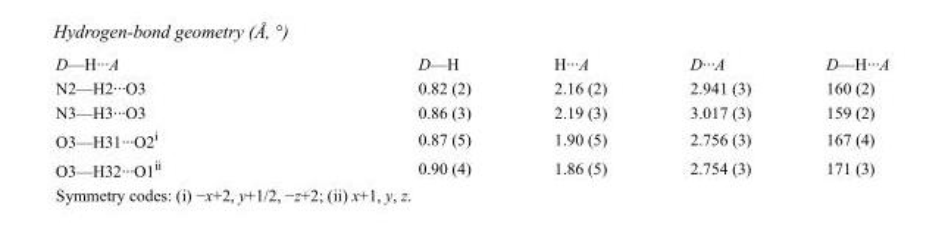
<table><tbody><tr><td>D—H···A</td><td>D—H</td><td>H···A</td><td>D···A</td><td>D—H···A</td></tr><tr><td>N2—H2···O3</td><td>0.82 (2)</td><td>2.16 (2)</td><td>2.941 (3)</td><td>160 (2)</td></tr><tr><td>N3—H3···O3</td><td>0.86 (3)</td><td>2.19 (3)</td><td>3.017 (3)</td><td>159 (2)</td></tr><tr><td>O3—H31···O2<sup>i</sup></td><td>0.87 (5)</td><td>1.90 (5)</td><td>2.756 (3)</td><td>167 (4)</td></tr><tr><td>O3—H32···O1<sup>ii</sup></td><td>0.90 (4)</td><td>1.86 (5)</td><td>2.754 (3)</td><td>171 (3)</td></tr></tbody></table>